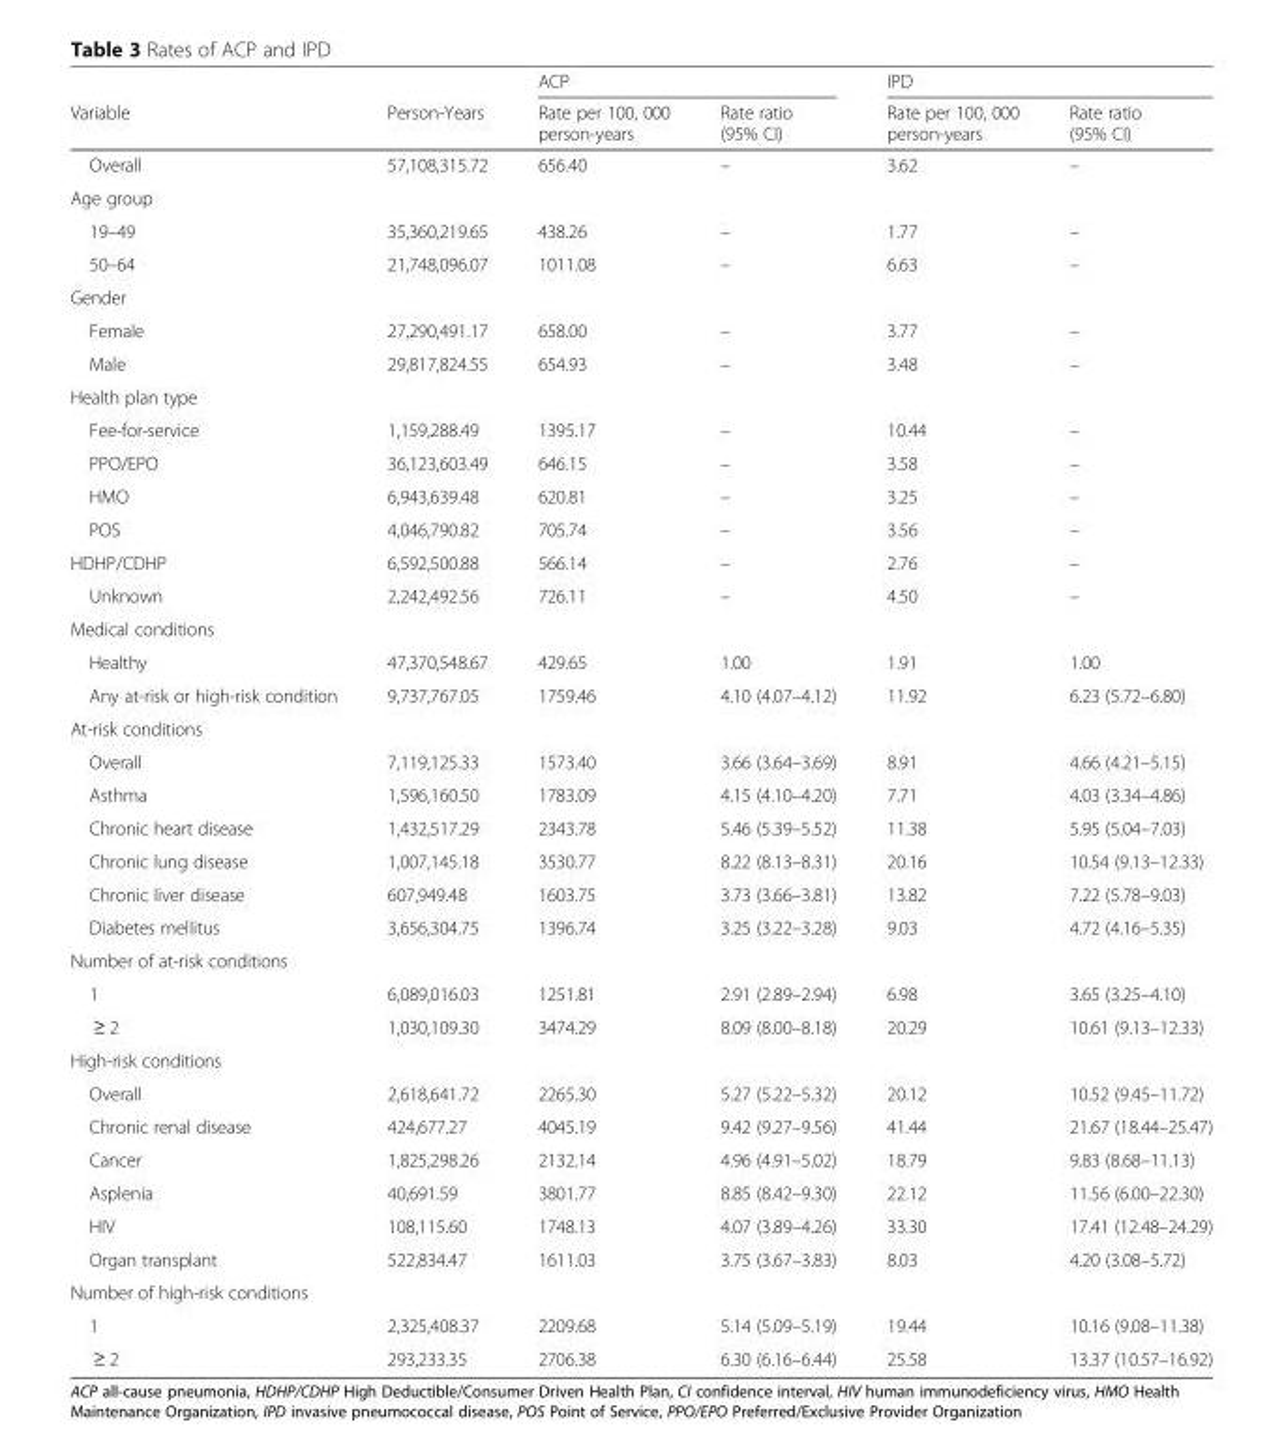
<table><thead><tr><td rowspan="2">Variable</td><td rowspan="2">Person-Years</td><td colspan="2">ACP</td><td colspan="2">IPD</td></tr><tr><td>Rate per 100, 000 person-years</td><td>Rate ratio (95% CI)</td><td>Rate per 100, 000 person-years</td><td>Rate ratio (95% CI)</td></tr></thead><tbody><tr><td>Overall</td><td>57,108,315.72</td><td>656.40</td><td>–</td><td>3.62</td><td>–</td></tr><tr><td colspan="6">Age group</td></tr><tr><td>19–49</td><td>35,360,219.65</td><td>438.26</td><td>–</td><td>1.77</td><td>–</td></tr><tr><td>50–64</td><td>21,748,096.07</td><td>1011.08</td><td>–</td><td>6.63</td><td>–</td></tr><tr><td colspan="6">Gender</td></tr><tr><td>Female</td><td>27,290,491.17</td><td>658.00</td><td>–</td><td>3.77</td><td>–</td></tr><tr><td>Male</td><td>29,817,824.55</td><td>654.93</td><td>–</td><td>3.48</td><td>–</td></tr><tr><td colspan="6">Health plan type</td></tr><tr><td>Fee-for-service</td><td>1,159,288.49</td><td>1395.17</td><td>–</td><td>10.44</td><td>–</td></tr><tr><td>PPO/EPO</td><td>36,123,603.49</td><td>646.15</td><td>–</td><td>3.58</td><td>–</td></tr><tr><td>HMO</td><td>6,943,639.48</td><td>620.81</td><td>–</td><td>3.25</td><td>–</td></tr><tr><td>POS</td><td>4,046,790.82</td><td>705.74</td><td>–</td><td>3.56</td><td>–</td></tr><tr><td>HDHP/CDHP</td><td>6,592,500.88</td><td>566.14</td><td>–</td><td>2.76</td><td>–</td></tr><tr><td>Unknown</td><td>2,242,492.56</td><td>726.11</td><td>–</td><td>4.50</td><td>–</td></tr><tr><td colspan="6">Medical conditions</td></tr><tr><td>Healthy</td><td>47,370,548.67</td><td>429.65</td><td>1.00</td><td>1.91</td><td>1.00</td></tr><tr><td>Any at-risk or high-risk condition</td><td>9,737,767.05</td><td>1759.46</td><td>4.10 (4.07–4.12)</td><td>11.92</td><td>6.23 (5.72–6.80)</td></tr><tr><td colspan="6">At-risk conditions</td></tr><tr><td>Overall</td><td>7,119,125.33</td><td>1573.40</td><td>3.66 (3.64–3.69)</td><td>8.91</td><td>4.66 (4.21–5.15)</td></tr><tr><td>Asthma</td><td>1,596,160.50</td><td>1783.09</td><td>4.15 (4.10–4.20)</td><td>7.71</td><td>4.03 (3.34–4.86)</td></tr><tr><td>Chronic heart disease</td><td>1,432,517.29</td><td>2343.78</td><td>5.46 (5.39–5.52)</td><td>11.38</td><td>5.95 (5.04–7.03)</td></tr><tr><td>Chronic lung disease</td><td>1,007,145.18</td><td>3530.77</td><td>8.22 (8.13–8.31)</td><td>20.16</td><td>10.54 (9.13–12.33)</td></tr><tr><td>Chronic liver disease</td><td>607,949.48</td><td>1603.75</td><td>3.73 (3.66–3.81)</td><td>13.82</td><td>7.22 (5.78–9.03)</td></tr><tr><td>Diabetes mellitus</td><td>3,656,304.75</td><td>1396.74</td><td>3.25 (3.22–3.28)</td><td>9.03</td><td>4.72 (4.16–5.35)</td></tr><tr><td colspan="6">Number of at-risk conditions</td></tr><tr><td>1</td><td>6,089,016.03</td><td>1251.81</td><td>2.91 (2.89–2.94)</td><td>6.98</td><td>3.65 (3.25–4.10)</td></tr><tr><td>≥ 2</td><td>1,030,109.30</td><td>3474.29</td><td>8.09 (8.00–8.18)</td><td>20.29</td><td>10.61 (9.13–12.33)</td></tr><tr><td colspan="6">High-risk conditions</td></tr><tr><td>Overall</td><td>2,618,641.72</td><td>2265.30</td><td>5.27 (5.22–5.32)</td><td>20.12</td><td>10.52 (9.45–11.72)</td></tr><tr><td>Chronic renal disease</td><td>424,677.27</td><td>4045.19</td><td>9.42 (9.27–9.56)</td><td>41.44</td><td>21.67 (18.44–25.47)</td></tr><tr><td>Cancer</td><td>1,825,298.26</td><td>2132.14</td><td>4.96 (4.91–5.02)</td><td>18.79</td><td>9.83 (8.68–11.13)</td></tr><tr><td>Asplenia</td><td>40,691.59</td><td>3801.77</td><td>8.85 (8.42–9.30)</td><td>22.12</td><td>11.56 (6.00–22.30)</td></tr><tr><td>HIV</td><td>108,115.60</td><td>1748.13</td><td>4.07 (3.89–4.26)</td><td>33.30</td><td>17.41 (12.48–24.29)</td></tr><tr><td>Organ transplant</td><td>522,834.47</td><td>1611.03</td><td>3.75 (3.67–3.83)</td><td>8.03</td><td>4.20 (3.08–5.72)</td></tr><tr><td colspan="6">Number of high-risk conditions</td></tr><tr><td>1</td><td>2,325,408.37</td><td>2209.68</td><td>5.14 (5.09–5.19)</td><td>19.44</td><td>10.16 (9.08–11.38)</td></tr><tr><td>≥ 2</td><td>293,233.35</td><td>2706.38</td><td>6.30 (6.16–6.44)</td><td>25.58</td><td>13.37 (10.57–16.92)</td></tr></tbody></table>